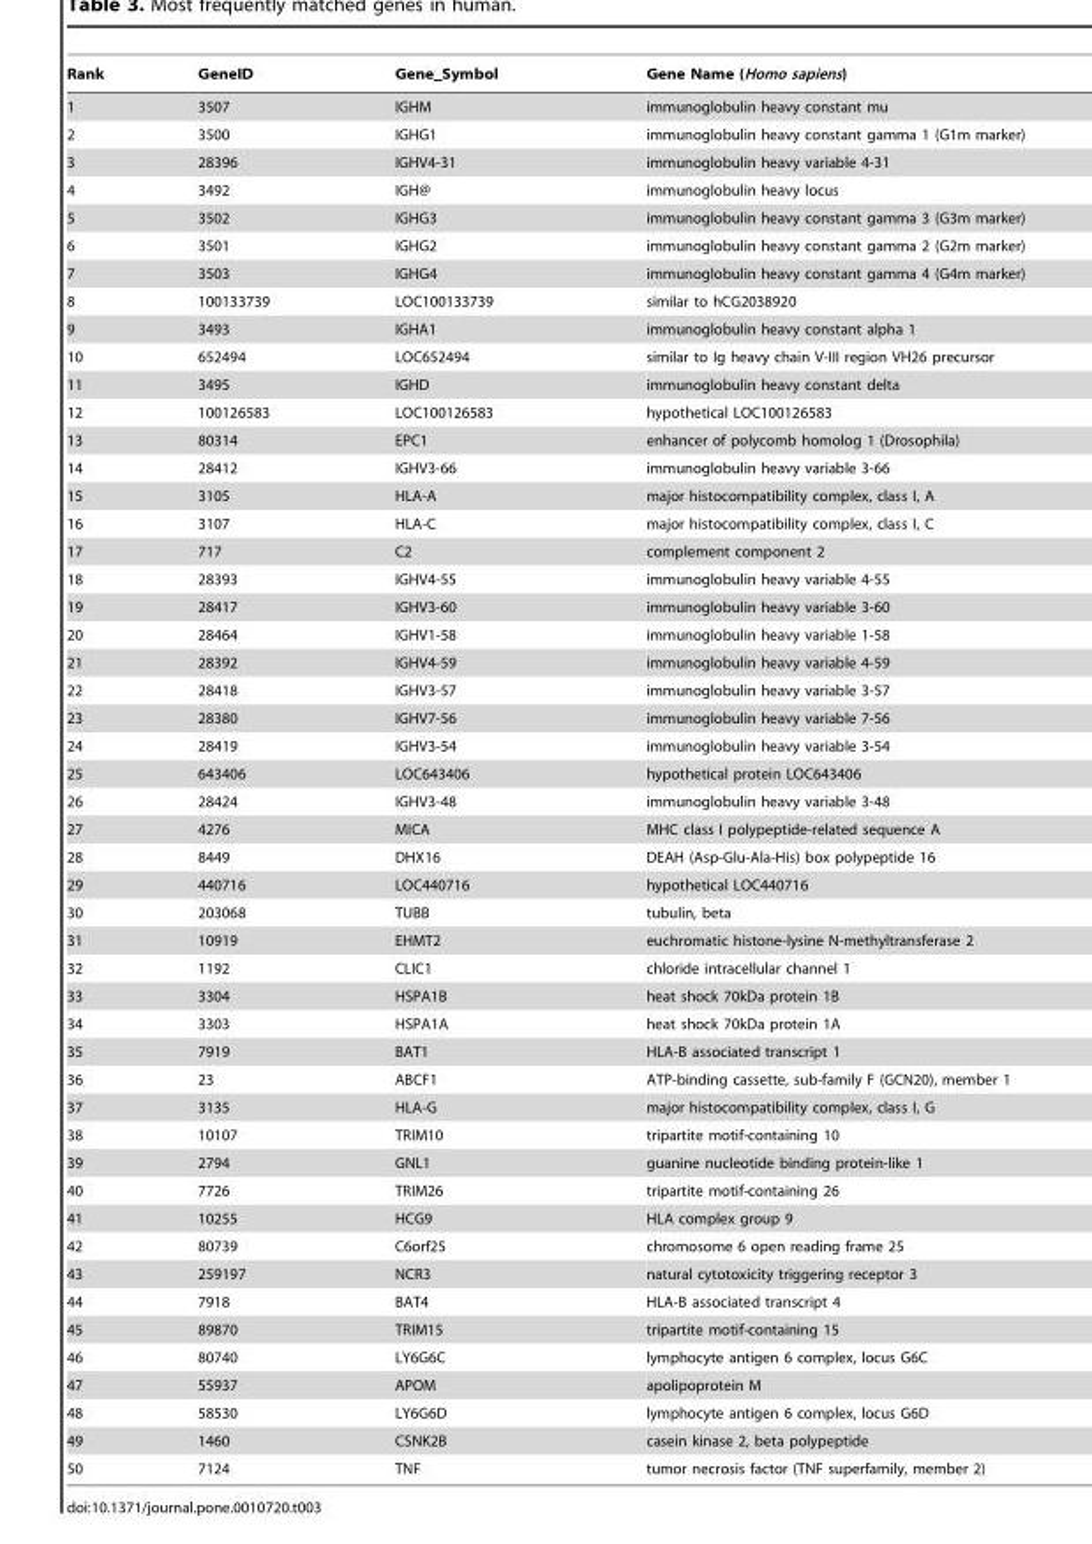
<table><thead><tr><td>Rank</td><td>GeneID</td><td>Gene__Symbol</td><td>Gene Name (Homo sapiens)</td></tr></thead><tbody><tr><td>1</td><td>3507</td><td>IGHM</td><td>immunoglobulin heavy constant mu</td></tr><tr><td>2</td><td>3500</td><td>IGHG1</td><td>immunoglobulin heavy constant gamma 1 (G1m marker)</td></tr><tr><td>3</td><td>28396</td><td>IGHV4-31</td><td>immunoglobulin heavy variable 4-31</td></tr><tr><td>4</td><td>3492</td><td>IGH@</td><td>immunoglobulin heavy locus</td></tr><tr><td>5</td><td>3502</td><td>IGHG3</td><td>immunoglobulin heavy constant gamma 3 (G3m marker)</td></tr><tr><td>6</td><td>3501</td><td>IGHG2</td><td>immunoglobulin heavy constant gamma 2 (G2m marker)</td></tr><tr><td>7</td><td>3503</td><td>IGHG4</td><td>immunoglobulin heavy constant gamma 4 (G4m marker)</td></tr><tr><td>8</td><td>100133739</td><td>LOC100133739</td><td>similar to hCG2038920</td></tr><tr><td>9</td><td>3493</td><td>IGHA1</td><td>immunoglobulin heavy constant alpha 1</td></tr><tr><td>10</td><td>652494</td><td>LOC652494</td><td>similar to Ig heavy chain V-III region VH26 precursor</td></tr><tr><td>11</td><td>3495</td><td>IGHD</td><td>immunoglobulin heavy constant delta</td></tr><tr><td>12</td><td>100126583</td><td>LOC100126583</td><td>hypothetical LOC100126583</td></tr><tr><td>13</td><td>80314</td><td>EPC1</td><td>enhancer of polycomb homolog 1 (Drosophila)</td></tr><tr><td>14</td><td>28412</td><td>IGHV3-66</td><td>immunoglobulin heavy variable 3-66</td></tr><tr><td>15</td><td>3105</td><td>HLA-A</td><td>major histocompatibility complex, class I, A</td></tr><tr><td>16</td><td>3107</td><td>HLA-C</td><td>major histocompatibility complex, class I, C</td></tr><tr><td>17</td><td>717</td><td>C2</td><td>complement component 2</td></tr><tr><td>18</td><td>28393</td><td>IGHV4-55</td><td>immunoglobulin heavy variable 4-55</td></tr><tr><td>19</td><td>28417</td><td>IGHV3-60</td><td>immunoglobulin heavy variable 3-60</td></tr><tr><td>20</td><td>28464</td><td>IGHV1-58</td><td>immunoglobulin heavy variable 1-58</td></tr><tr><td>21</td><td>28392</td><td>IGHV4-59</td><td>immunoglobulin heavy variable 4-59</td></tr><tr><td>22</td><td>28418</td><td>IGHV3-57</td><td>immunoglobulin heavy variable 3-57</td></tr><tr><td>23</td><td>28380</td><td>IGHV7-56</td><td>immunoglobulin heavy variable 7-56</td></tr><tr><td>24</td><td>28419</td><td>IGHV3-54</td><td>immunoglobulin heavy variable 3-54</td></tr><tr><td>25</td><td>643406</td><td>LOC643406</td><td>hypothetical protein LOC643406</td></tr><tr><td>26</td><td>28424</td><td>IGHV3-48</td><td>immunoglobulin heavy variable 3-48</td></tr><tr><td>27</td><td>4276</td><td>MICA</td><td>MHC class I polypeptide-related sequence A</td></tr><tr><td>28</td><td>8449</td><td>DHX16</td><td>DEAH (Asp-Glu-Ala-His) box polypeptide 16</td></tr><tr><td>29</td><td>440716</td><td>LOC440716</td><td>hypothetical LOC440716</td></tr><tr><td>30</td><td>203068</td><td>TUBB</td><td>tubulin, beta</td></tr><tr><td>31</td><td>10919</td><td>EHMT2</td><td>euchromatic histone-lysine N-methyltransferase 2</td></tr><tr><td>32</td><td>1192</td><td>CLIC1</td><td>chloride intracellular channel 1</td></tr><tr><td>33</td><td>3304</td><td>HSPA1B</td><td>heat shock 70kDa protein 1B</td></tr><tr><td>34</td><td>3303</td><td>HSPA1A</td><td>heat shock 70kDa protein 1A</td></tr><tr><td>35</td><td>7919</td><td>BAT1</td><td>HLA-B associated transcript 1</td></tr><tr><td>36</td><td>23</td><td>ABCF1</td><td>ATP-binding cassette, sub-family F (GCN20), member 1</td></tr><tr><td>37</td><td>3135</td><td>HLA-G</td><td>major histocompatibility complex, class I, G</td></tr><tr><td>38</td><td>10107</td><td>TRIM10</td><td>tripartite motif-containing 10</td></tr><tr><td>39</td><td>2794</td><td>GNL1</td><td>guanine nucleotide binding protein-like 1</td></tr><tr><td>40</td><td>7726</td><td>TRIM26</td><td>tripartite motif-containing 26</td></tr><tr><td>41</td><td>10255</td><td>HCG9</td><td>HLA complex group 9</td></tr><tr><td>42</td><td>80739</td><td>C6orf25</td><td>chromosome 6 open reading frame 25</td></tr><tr><td>43</td><td>259197</td><td>NCR3</td><td>natural cytotoxicity triggering receptor 3</td></tr><tr><td>44</td><td>7918</td><td>BAT4</td><td>HLA-B associated transcript 4</td></tr><tr><td>45</td><td>89870</td><td>TRIM15</td><td>tripartite motif-containing 15</td></tr><tr><td>46</td><td>80740</td><td>LY6G6C</td><td>lymphocyte antigen 6 complex, locus G6C</td></tr><tr><td>47</td><td>55937</td><td>APOM</td><td>apolipoprotein M</td></tr><tr><td>48</td><td>58530</td><td>LY6G6D</td><td>lymphocyte antigen 6 complex, locus G6D</td></tr><tr><td>49</td><td>1460</td><td>CSNK2B</td><td>casein kinase 2, beta polypeptide</td></tr><tr><td>50</td><td>7124</td><td>TNF</td><td>tumor necrosis factor (TNF superfamily, member 2)</td></tr></tbody></table>